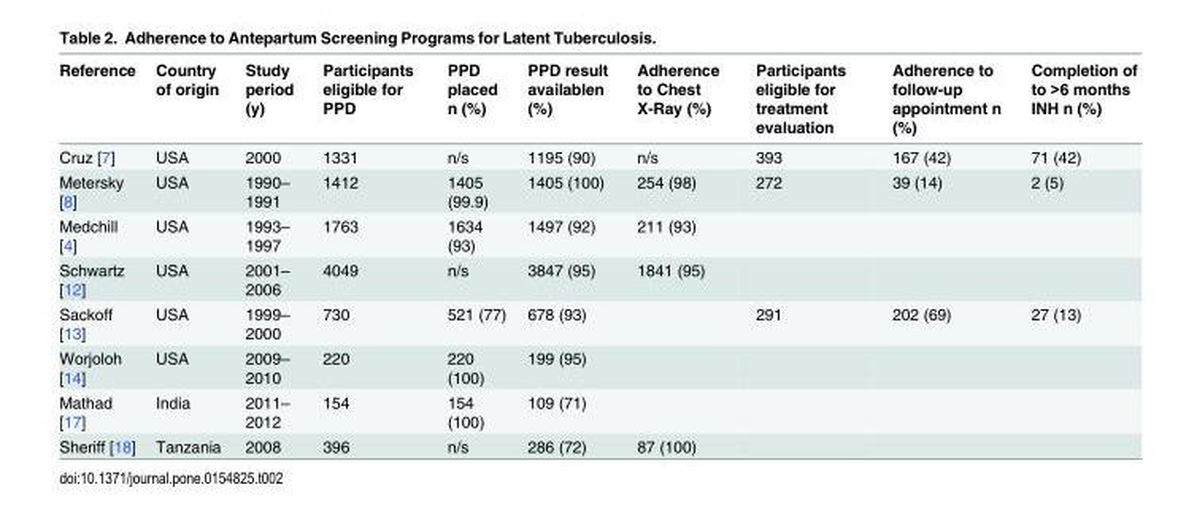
<table><thead><tr><td>Reference</td><td>Country of origin</td><td>Study period (y)</td><td>Participants eligible for PPD</td><td>PPD placed n (%)</td><td>PPD result availablen (%)</td><td>Adherence to Chest X-Ray (%)</td><td>Participants eligible for treatment evaluation</td><td>Adherence to follow-up appointment n (%)</td><td>Completion of to &gt;6 months INH n (%)</td></tr></thead><tbody><tr><td>Cruz [7]</td><td>USA</td><td>2000</td><td>1331</td><td>n/s</td><td>1195 (90)</td><td>n/s</td><td>393</td><td>167 (42)</td><td>71 (42)</td></tr><tr><td>Metersky [8]</td><td>USA</td><td>1990– 1991</td><td>1412</td><td>1405 (99.9)</td><td>1405 (100)</td><td>254 (98)</td><td>272</td><td>39 (14)</td><td>2 (5)</td></tr><tr><td>Medchill [4]</td><td>USA</td><td>1993– 1997</td><td>1763</td><td>1634 (93)</td><td>1497 (92)</td><td>211 (93)</td><td></td><td></td><td></td></tr><tr><td>Schwartz [12]</td><td>USA</td><td>2001– 2006</td><td>4049</td><td>n/s</td><td>3847 (95)</td><td>1841 (95)</td><td></td><td></td><td></td></tr><tr><td>Sackoff [13]</td><td>USA</td><td>1999– 2000</td><td>730</td><td>521 (77)</td><td>678 (93)</td><td></td><td>291</td><td>202 (69)</td><td>27 (13)</td></tr><tr><td>Worjoloh [14]</td><td>USA</td><td>2009– 2010</td><td>220</td><td>220 (100)</td><td>199 (95)</td><td></td><td></td><td></td><td></td></tr><tr><td>Mathad [17]</td><td>India</td><td>2011– 2012</td><td>154</td><td>154 (100)</td><td>109 (71)</td><td></td><td></td><td></td><td></td></tr><tr><td>Sheriff [18]</td><td>Tanzania</td><td>2008</td><td>396</td><td>n/s</td><td>286 (72)</td><td>87 (100)</td><td></td><td></td><td></td></tr></tbody></table>